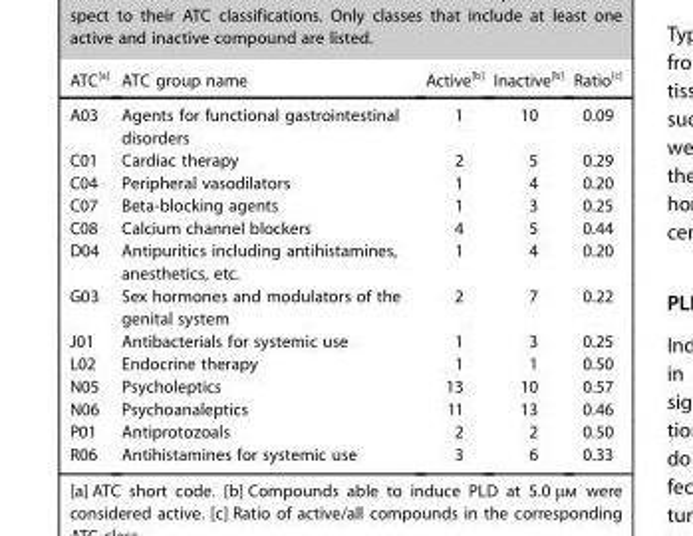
<table><thead><tr><td>ATC[a]</td><td>ATC group name</td><td>Active[b]</td><td>Inactive[b]</td><td>Ratio[c]</td></tr></thead><tbody><tr><td>A03</td><td>Agents for functional gastrointestinal disorders</td><td>1</td><td>10</td><td>0.09</td></tr><tr><td>C01</td><td>Cardiac therapy</td><td>2</td><td>5</td><td>0.29</td></tr><tr><td>C04</td><td>Peripheral vasodilators</td><td>1</td><td>4</td><td>0.20</td></tr><tr><td>C07</td><td>Beta-blocking agents</td><td>1</td><td>3</td><td>0.25</td></tr><tr><td>C08</td><td>Calcium channel blockers</td><td>4</td><td>5</td><td>0.44</td></tr><tr><td>D04</td><td>Antipuritics including antihistamines, anesthetics, etc.</td><td>1</td><td>4</td><td>0.20</td></tr><tr><td>G03</td><td>Sex hormones and modulators of the genital system</td><td>2</td><td>7</td><td>0.22</td></tr><tr><td>J01</td><td>Antibacterials for systemic use</td><td>1</td><td>3</td><td>0.25</td></tr><tr><td>L02</td><td>Endocrine therapy</td><td>1</td><td>1</td><td>0.50</td></tr><tr><td>N05</td><td>Psycholeptics</td><td>13</td><td>10</td><td>0.57</td></tr><tr><td>N06</td><td>Psychoanaleptics</td><td>11</td><td>13</td><td>0.46</td></tr><tr><td>P01</td><td>Antiprotozoals</td><td>2</td><td>2</td><td>0.50</td></tr><tr><td>R06</td><td>Antihistamines for systemic use</td><td>3</td><td>6</td><td>0.33</td></tr></tbody></table>